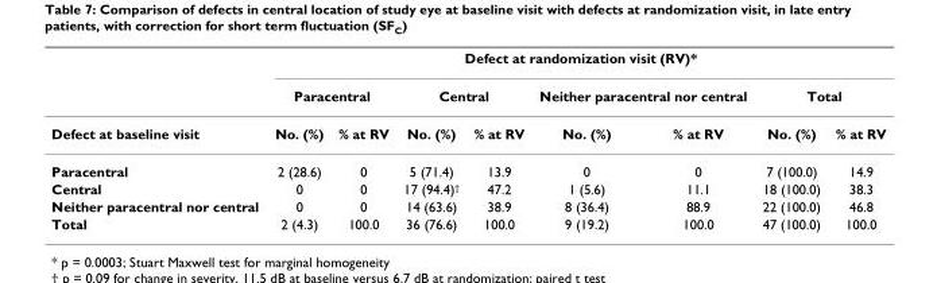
<table><thead><tr><td rowspan="3">Defect at baseline visit</td><td colspan="8">Defect at randomization visit (RV)*</td></tr><tr><td colspan="2">Paracentral</td><td colspan="2">Central</td><td colspan="2">Neither paracentral nor central</td><td colspan="2">Total</td></tr><tr><td>No. (%)</td><td>% at RV</td><td>No. (%)</td><td>% at RV</td><td>No. (%)</td><td>% at RV</td><td>No. (%)</td><td>% at RV</td></tr></thead><tbody><tr><td>Paracentral</td><td>2 (28.6)</td><td>0</td><td>5 (71.4)</td><td>13.9</td><td>0</td><td>0</td><td>7 (100.0)</td><td>14.9</td></tr><tr><td>Central</td><td>0</td><td>0</td><td>17 (94.4)<sup>†</sup></td><td>47.2</td><td>1 (5.6)</td><td>11.1</td><td>18 (100.0)</td><td>38.3</td></tr><tr><td>Neither paracentral nor central</td><td>0</td><td>0</td><td>14 (63.6)</td><td>38.9</td><td>8 (36.4)</td><td>88.9</td><td>22 (100.0)</td><td>46.8</td></tr><tr><td>Total</td><td>2 (4.3)</td><td>100.0</td><td>36 (76.6)</td><td>100.0</td><td>9 (19.2)</td><td>100.0</td><td>47 (100.0)</td><td>100.0</td></tr></tbody></table>